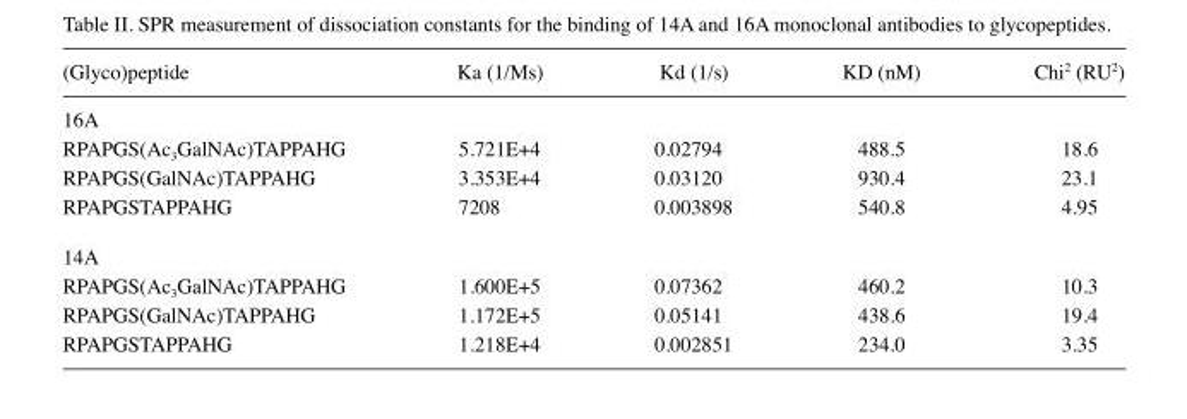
<table><thead><tr><td>(Glyco)peptide</td><td>Ka (1/Ms)</td><td>Kd (1/s)</td><td>KD (nM)</td><td>Chi<sup>2</sup> (RU<sup>2</sup>)</td></tr></thead><tbody><tr><td colspan="5">16A</td></tr><tr><td>RPAPGS(Ac<sub>3</sub>GalNAc)TAPPAHG</td><td>5.721E+4</td><td>0.02794</td><td>488.5</td><td>18.6</td></tr><tr><td>RPAPGS(GalNAc)TAPPAHG</td><td>3.353E+4</td><td>0.03120</td><td>930.4</td><td>23.1</td></tr><tr><td>RPAPGSTAPPAHG</td><td>7208</td><td>0.003898</td><td>540.8</td><td>4.95</td></tr><tr><td colspan="5">14A</td></tr><tr><td>RPAPGS(Ac<sub>3</sub>GalNAc)TAPPAHG</td><td>1.600E+5</td><td>0.07362</td><td>460.2</td><td>10.3</td></tr><tr><td>RPAPGS(GalNAc)TAPPAHG</td><td>1.172E+5</td><td>0.05141</td><td>438.6</td><td>19.4</td></tr><tr><td>RPAPGSTAPPAHG</td><td>1.218E+4</td><td>0.002851</td><td>234.0</td><td>3.35</td></tr></tbody></table>